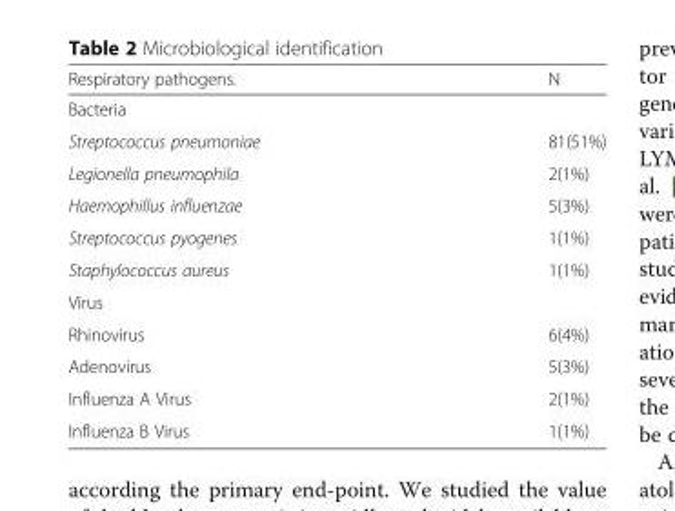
<table><thead><tr><td>Respiratory pathogens.</td><td>N</td></tr></thead><tbody><tr><td colspan="2">Bacteria</td></tr><tr><td>Streptococcus pneumoniae</td><td>81(51%)</td></tr><tr><td>Legionella pneumophila</td><td>2(1%)</td></tr><tr><td>Haemophillus influenzae</td><td>5(3%)</td></tr><tr><td>Streptococcus pyogenes</td><td>1(1%)</td></tr><tr><td>Staphylococcus aureus</td><td>1(1%)</td></tr><tr><td colspan="2">Virus</td></tr><tr><td>Rhinovirus</td><td>6(4%)</td></tr><tr><td>Adenovirus</td><td>5(3%)</td></tr><tr><td>Influenza A Virus</td><td>2(1%)</td></tr><tr><td>Influenza B Virus</td><td>1(1%)</td></tr></tbody></table>